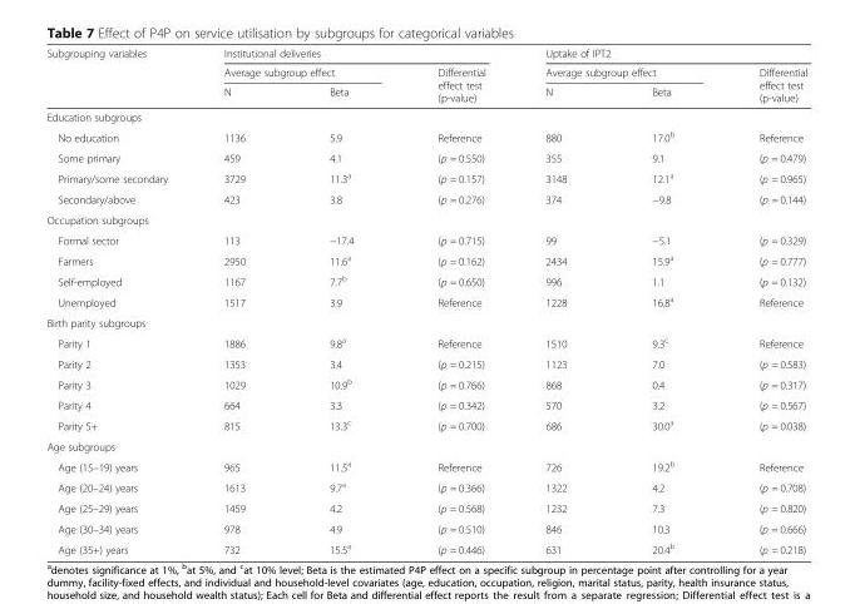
<table><thead><tr><td rowspan="3">Subgrouping variables</td><td colspan="3">Institutional deliveries</td><td colspan="3">Uptake of IPT2</td></tr><tr><td colspan="2">Average subgroup effect</td><td rowspan="2">Differential effect test (p-value)</td><td colspan="2">Average subgroup effect</td><td rowspan="2">Differential effect test (p-value)</td></tr><tr><td>N</td><td>Beta</td><td>N</td><td>Beta</td></tr></thead><tbody><tr><td colspan="7">Education subgroups</td></tr><tr><td>No education</td><td>1136</td><td>5.9</td><td>Reference</td><td>880</td><td>17.0<sup>b</sup></td><td>Reference</td></tr><tr><td>Some primary</td><td>459</td><td>4.1</td><td>(p = 0.550)</td><td>355</td><td>9.1</td><td>(p = 0.479)</td></tr><tr><td>Primary/some secondary</td><td>3729</td><td>11.3<sup>a</sup></td><td>(p = 0.157)</td><td>3148</td><td>12.1<sup>a</sup></td><td>(p = 0.965)</td></tr><tr><td>Secondary/above</td><td>423</td><td>3.8</td><td>(p = 0.276)</td><td>374</td><td>−9.8</td><td>(p = 0.144)</td></tr><tr><td colspan="7">Occupation subgroups</td></tr><tr><td>Formal sector</td><td>113</td><td>−17.4</td><td>(p = 0.715)</td><td>99</td><td>−5.1</td><td>(p = 0.329)</td></tr><tr><td>Farmers</td><td>2950</td><td>11.6<sup>a</sup></td><td>(p = 0.162)</td><td>2434</td><td>15.9<sup>a</sup></td><td>(p = 0.777)</td></tr><tr><td>Self-employed</td><td>1167</td><td>7.7<sup>b</sup></td><td>(p = 0.650)</td><td>996</td><td>1.1</td><td>(p = 0.132)</td></tr><tr><td>Unemployed</td><td>1517</td><td>3.9</td><td>Reference</td><td>1228</td><td>16.8<sup>a</sup></td><td>Reference</td></tr><tr><td colspan="7">Birth parity subgroups</td></tr><tr><td>Parity 1</td><td>1886</td><td>9.8<sup>a</sup></td><td>Reference</td><td>1510</td><td>9.3<sup>c</sup></td><td>Reference</td></tr><tr><td>Parity 2</td><td>1353</td><td>3.4</td><td>(p = 0.215)</td><td>1123</td><td>7.0</td><td>(p = 0.583)</td></tr><tr><td>Parity 3</td><td>1029</td><td>10.9<sup>b</sup></td><td>(p = 0.766)</td><td>868</td><td>0.4</td><td>(p = 0.317)</td></tr><tr><td>Parity 4</td><td>664</td><td>3.3</td><td>(p = 0.342)</td><td>570</td><td>3.2</td><td>(p = 0.567)</td></tr><tr><td>Parity 5+</td><td>815</td><td>13.3<sup>c</sup></td><td>(p = 0.700)</td><td>686</td><td>30.0<sup>a</sup></td><td>(p = 0.038)</td></tr><tr><td colspan="7">Age subgroups</td></tr><tr><td>Age (15–19) years</td><td>965</td><td>11.5<sup>a</sup></td><td>Reference</td><td>726</td><td>19.2<sup>b</sup></td><td>Reference</td></tr><tr><td>Age (20–24) years</td><td>1613</td><td>9.7<sup>a</sup></td><td>(p = 0.366)</td><td>1322</td><td>4.2</td><td>(p = 0.708)</td></tr><tr><td>Age (25–29) years</td><td>1459</td><td>4.2</td><td>(p = 0.568)</td><td>1232</td><td>7.3</td><td>(p = 0.820)</td></tr><tr><td>Age (30–34) years</td><td>978</td><td>4.9</td><td>(p = 0.510)</td><td>846</td><td>10.3</td><td>(p = 0.666)</td></tr><tr><td>Age (35+) years</td><td>732</td><td>15.5<sup>a</sup></td><td>(p = 0.446)</td><td>631</td><td>20.4<sup>b</sup></td><td>(p = 0.218)</td></tr></tbody></table>